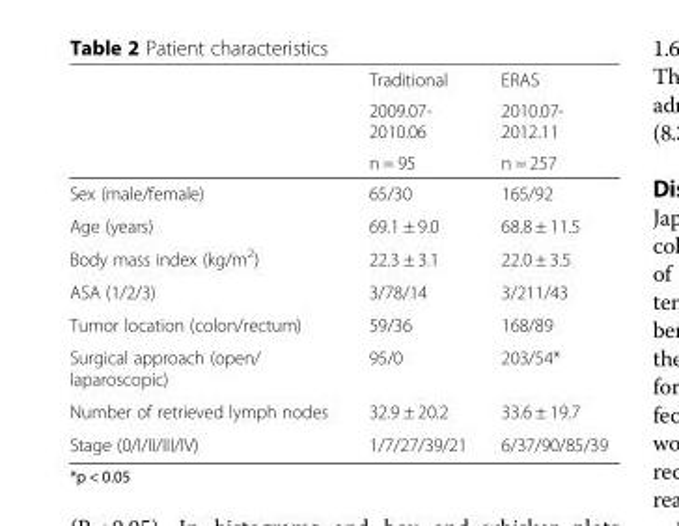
<table><thead><tr><td rowspan="3"></td><td rowspan="3">Traditional 2009.07- 2010.06 n = 95</td><td rowspan="3">ERAS 2010.07- 2012.11 n = 257</td></tr><tr></tr><tr></tr></thead><tbody><tr><td>Sex (male/female)</td><td>65/30</td><td>165/92</td></tr><tr><td>Age (years)</td><td>69.1 ± 9.0</td><td>68.8 ± 11.5</td></tr><tr><td>Body mass index (kg/m<sup>2</sup>)</td><td>22.3 ± 3.1</td><td>22.0 ± 3.5</td></tr><tr><td>ASA (1/2/3)</td><td>3/78/14</td><td>3/211/43</td></tr><tr><td>Tumor location (colon/rectum)</td><td>59/36</td><td>168/89</td></tr><tr><td>Surgical approach (open/ laparoscopic)</td><td>95/0</td><td>203/54*</td></tr><tr><td>Number of retrieved lymph nodes</td><td>32.9 ± 20.2</td><td>33.6 ± 19.7</td></tr><tr><td>Stage (0/I/II/III/IV)</td><td>1/7/27/39/21</td><td>6/37/90/85/39</td></tr></tbody></table>